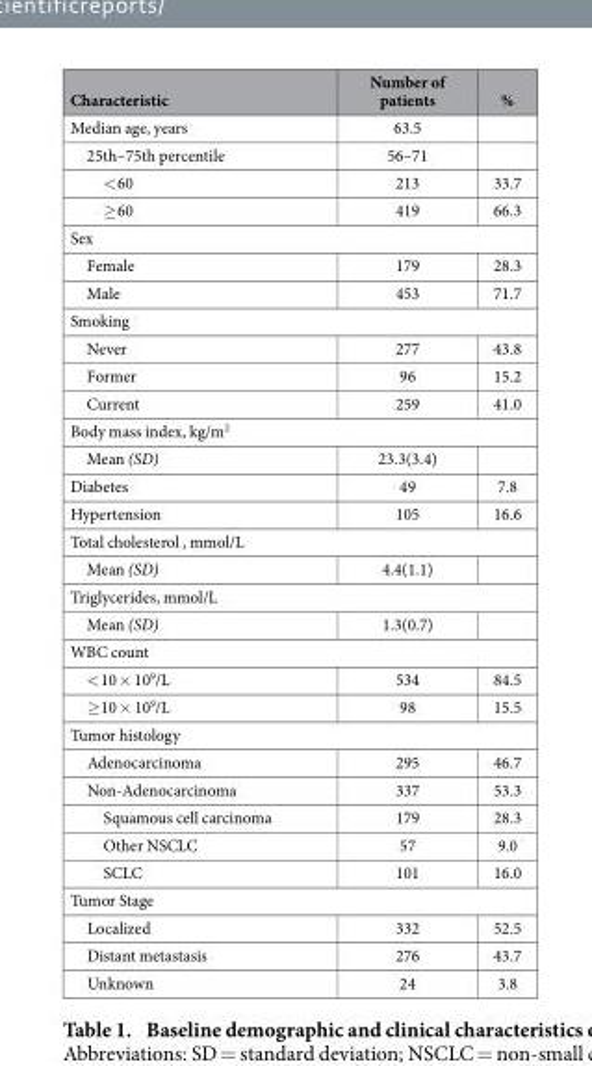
<table><thead><tr><td>Characteristic</td><td>Number of patients</td><td>%</td></tr></thead><tbody><tr><td>Median age, years</td><td>63.5</td><td></td></tr><tr><td>25th–75th percentile</td><td>56–71</td><td></td></tr><tr><td>&lt; 60</td><td>213</td><td>33.7</td></tr><tr><td>≥ 60</td><td>419</td><td>66.3</td></tr><tr><td colspan="3">Sex</td></tr><tr><td>Female</td><td>179</td><td>28.3</td></tr><tr><td>Male</td><td>453</td><td>71.7</td></tr><tr><td colspan="3">Smoking</td></tr><tr><td>Never</td><td>277</td><td>43.8</td></tr><tr><td>Former</td><td>96</td><td>15.2</td></tr><tr><td>Current</td><td>259</td><td>41.0</td></tr><tr><td colspan="3">Body mass index, kg/m<sup>2</sup></td></tr><tr><td>Mean (SD)</td><td>23.3(3.4)</td><td></td></tr><tr><td>Diabetes</td><td>49</td><td>7.8</td></tr><tr><td>Hypertension</td><td>105</td><td>16.6</td></tr><tr><td colspan="3">Total cholesterol , mmol/L</td></tr><tr><td>Mean (SD)</td><td>4.4(1.1)</td><td></td></tr><tr><td colspan="3">Triglycerides, mmol/L</td></tr><tr><td>Mean (SD)</td><td>1.3(0.7)</td><td></td></tr><tr><td colspan="3">WBC count</td></tr><tr><td>&lt; 10 × 10<sup>9</sup>/L</td><td>534</td><td>84.5</td></tr><tr><td>≥ 10 × 10<sup>9</sup>/L</td><td>98</td><td>15.5</td></tr><tr><td colspan="3">Tumor histology</td></tr><tr><td>Adenocarcinoma</td><td>295</td><td>46.7</td></tr><tr><td>Non-Adenocarcinoma</td><td>337</td><td>53.3</td></tr><tr><td>Squamous cell carcinoma</td><td>179</td><td>28.3</td></tr><tr><td>Other NSCLC</td><td>57</td><td>9.0</td></tr><tr><td>SCLC</td><td>101</td><td>16.0</td></tr><tr><td colspan="3">Tumor Stage</td></tr><tr><td>Localized</td><td>332</td><td>52.5</td></tr><tr><td>Distant metastasis</td><td>276</td><td>43.7</td></tr><tr><td>Unknown</td><td>24</td><td>3.8</td></tr></tbody></table>